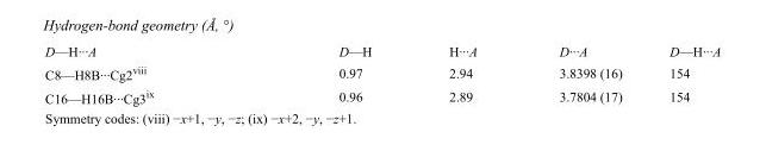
<table><tbody><tr><td>D—H···A</td><td>D—H</td><td>H···A</td><td>D···A</td><td>D—H···A</td></tr><tr><td>C8—H8B···Cg2<sup>viii</sup></td><td>0.97</td><td>2.94</td><td>3.8398 (16)</td><td>154</td></tr><tr><td>C16—H16B···Cg3<sup>ix</sup></td><td>0.96</td><td>2.89</td><td>3.7804 (17)</td><td>154</td></tr></tbody></table>